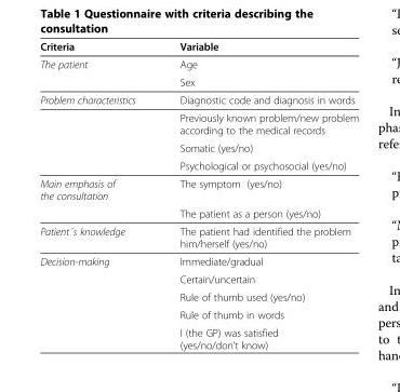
<table><thead><tr><td>Criteria</td><td>Variable</td></tr></thead><tbody><tr><td rowspan="2">The patient</td><td>Age</td></tr><tr><td>Sex</td></tr><tr><td rowspan="4">Problem characteristics</td><td>Diagnostic code and diagnosis in words</td></tr><tr><td>Previously known problem/new problem according to the medical records</td></tr><tr><td>Somatic (yes/no)</td></tr><tr><td>Psychological or psychosocial (yes/no)</td></tr><tr><td rowspan="2">Main emphasis of the consultation</td><td>The symptom (yes/no)</td></tr><tr><td>The patient as a person (yes/no)</td></tr><tr><td>Patient´s knowledge</td><td>The patient had identified the problem him/herself (yes/no)</td></tr><tr><td rowspan="5">Decision-making</td><td>Immediate/gradual</td></tr><tr><td>Certain/uncertain</td></tr><tr><td>Rule of thumb used (yes/no)</td></tr><tr><td>Rule of thumb in words</td></tr><tr><td>I (the GP) was satisfied (yes/no/don’t know)</td></tr></tbody></table>